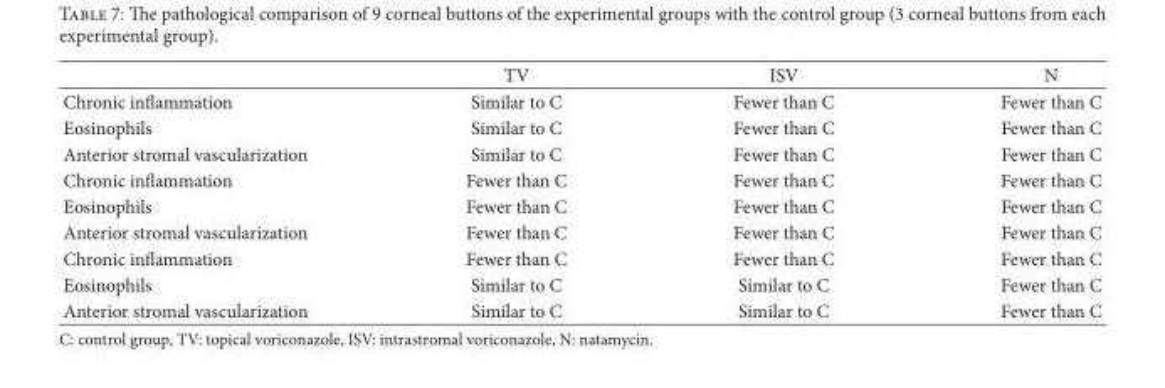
<table><thead><tr><td></td><td>TV</td><td>ISV</td><td>N</td></tr></thead><tbody><tr><td>Chronic inflammation</td><td>Similar to C</td><td>Fewer than C</td><td>Fewer than C</td></tr><tr><td>Eosinophils</td><td>Similar to C</td><td>Fewer than C</td><td>Fewer than C</td></tr><tr><td>Anterior stromal vascularization</td><td>Similar to C</td><td>Fewer than C</td><td>Fewer than C</td></tr><tr><td>Chronic inflammation</td><td>Fewer than C</td><td>Fewer than C</td><td>Fewer than C</td></tr><tr><td>Eosinophils</td><td>Fewer than C</td><td>Fewer than C</td><td>Fewer than C</td></tr><tr><td>Anterior stromal vascularization</td><td>Fewer than C</td><td>Fewer than C</td><td>Fewer than C</td></tr><tr><td>Chronic inflammation</td><td>Fewer than C</td><td>Fewer than C</td><td>Fewer than C</td></tr><tr><td>Eosinophils</td><td>Similar to C</td><td>Similar to C</td><td>Fewer than C</td></tr><tr><td>Anterior stromal vascularization</td><td>Similar to C</td><td>Similar to C</td><td>Fewer than C</td></tr></tbody></table>